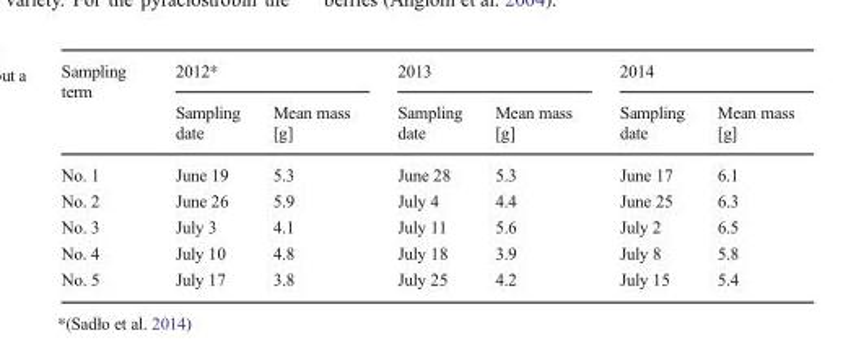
<table><thead><tr><td rowspan="2">Sampling term</td><td colspan="2">2012*</td><td colspan="2">2013</td><td colspan="2">2014</td></tr><tr><td>Sampling date</td><td>Mean mass [g]</td><td>Sampling date</td><td>Mean mass [g]</td><td>Sampling date</td><td>Mean mass [g]</td></tr></thead><tbody><tr><td>No. 1</td><td>June 19</td><td>5.3</td><td>June 28</td><td>5.3</td><td>June 17</td><td>6.1</td></tr><tr><td>No. 2</td><td>June 26</td><td>5.9</td><td>July 4</td><td>4.4</td><td>June 25</td><td>6.3</td></tr><tr><td>No. 3</td><td>July 3</td><td>4.1</td><td>July 11</td><td>5.6</td><td>July 2</td><td>6.5</td></tr><tr><td>No. 4</td><td>July 10</td><td>4.8</td><td>July 18</td><td>3.9</td><td>July 8</td><td>5.8</td></tr><tr><td>No. 5</td><td>July 17</td><td>3.8</td><td>July 25</td><td>4.2</td><td>July 15</td><td>5.4</td></tr></tbody></table>